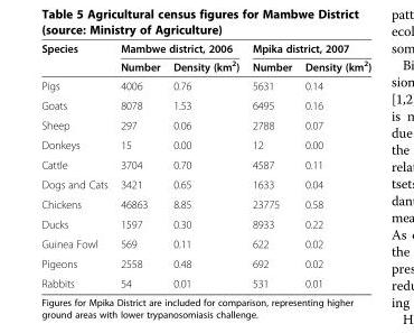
<table><thead><tr><td rowspan="2">Species</td><td colspan="2">Mambwe district, 2006</td><td colspan="2">Mpika district, 2007</td></tr><tr><td>Number</td><td>Density (km<sup>2</sup>)</td><td>Number</td><td>Density (km<sup>2</sup>)</td></tr></thead><tbody><tr><td>Pigs</td><td>4006</td><td>0.76</td><td>5631</td><td>0.14</td></tr><tr><td>Goats</td><td>8078</td><td>1.53</td><td>6495</td><td>0.16</td></tr><tr><td>Sheep</td><td>297</td><td>0.06</td><td>2788</td><td>0.07</td></tr><tr><td>Donkeys</td><td>15</td><td>0.00</td><td>12</td><td>0.00</td></tr><tr><td>Cattle</td><td>3704</td><td>0.70</td><td>4587</td><td>0.11</td></tr><tr><td>Dogs and Cats</td><td>3421</td><td>0.65</td><td>1633</td><td>0.04</td></tr><tr><td>Chickens</td><td>46863</td><td>8.85</td><td>23775</td><td>0.58</td></tr><tr><td>Ducks</td><td>1597</td><td>0.30</td><td>8933</td><td>0.22</td></tr><tr><td>Guinea Fowl</td><td>569</td><td>0.11</td><td>622</td><td>0.02</td></tr><tr><td>Pigeons</td><td>2558</td><td>0.48</td><td>692</td><td>0.02</td></tr><tr><td>Rabbits</td><td>54</td><td>0.01</td><td>531</td><td>0.01</td></tr></tbody></table>